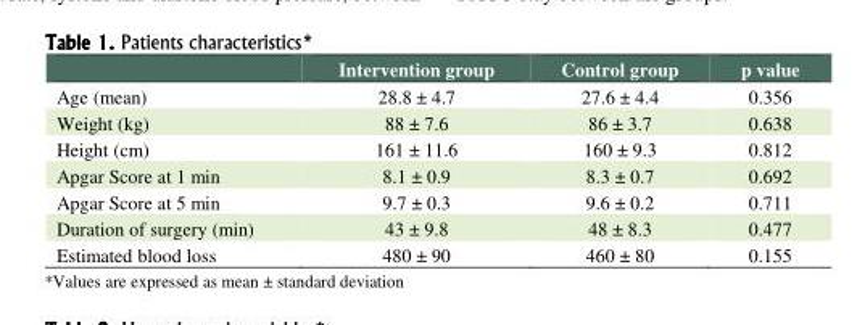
<table><thead><tr><td></td><td>Intervention group</td><td>Control group</td><td>p value</td></tr></thead><tbody><tr><td>Age (mean)</td><td>28.8 ± 4.7</td><td>27.6 ± 4.4</td><td>0.356</td></tr><tr><td>Weight (kg)</td><td>88 ± 7.6</td><td>86 ± 3.7</td><td>0.638</td></tr><tr><td>Height (cm)</td><td>161 ± 11.6</td><td>160 ± 9.3</td><td>0.812</td></tr><tr><td>Apgar Score at 1 min</td><td>8.1 ± 0.9</td><td>8.3 ± 0.7</td><td>0.692</td></tr><tr><td>Apgar Score at 5 min</td><td>9.7 ± 0.3</td><td>9.6 ± 0.2</td><td>0.711</td></tr><tr><td>Duration of surgery (min)</td><td>43 ± 9.8</td><td>48 ± 8.3</td><td>0.477</td></tr><tr><td>Estimated blood loss</td><td>480 ± 90</td><td>460 ± 80</td><td>0.155</td></tr></tbody></table>